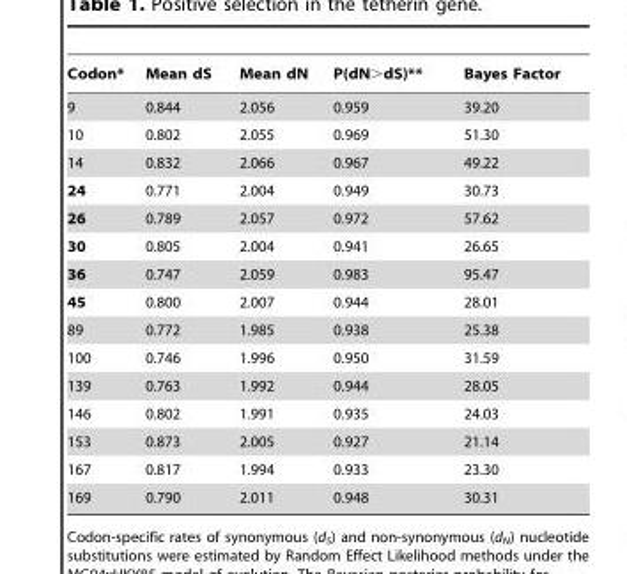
<table><thead><tr><td>Codon*</td><td>Mean dS</td><td>Mean dN</td><td>P(dN&gt;dS)**</td><td>Bayes Factor</td></tr></thead><tbody><tr><td>9</td><td>0.844</td><td>2.056</td><td>0.959</td><td>39.20</td></tr><tr><td>10</td><td>0.802</td><td>2.055</td><td>0.969</td><td>51.30</td></tr><tr><td>14</td><td>0.832</td><td>2.066</td><td>0.967</td><td>49.22</td></tr><tr><td>24</td><td>0.771</td><td>2.004</td><td>0.949</td><td>30.73</td></tr><tr><td>26</td><td>0.789</td><td>2.057</td><td>0.972</td><td>57.62</td></tr><tr><td>30</td><td>0.805</td><td>2.004</td><td>0.941</td><td>26.65</td></tr><tr><td>36</td><td>0.747</td><td>2.059</td><td>0.983</td><td>95.47</td></tr><tr><td>45</td><td>0.800</td><td>2.007</td><td>0.944</td><td>28.01</td></tr><tr><td>89</td><td>0.772</td><td>1.985</td><td>0.938</td><td>25.38</td></tr><tr><td>100</td><td>0.746</td><td>1.996</td><td>0.950</td><td>31.59</td></tr><tr><td>139</td><td>0.763</td><td>1.992</td><td>0.944</td><td>28.05</td></tr><tr><td>146</td><td>0.802</td><td>1.991</td><td>0.935</td><td>24.03</td></tr><tr><td>153</td><td>0.873</td><td>2.005</td><td>0.927</td><td>21.14</td></tr><tr><td>167</td><td>0.817</td><td>1.994</td><td>0.933</td><td>23.30</td></tr><tr><td>169</td><td>0.790</td><td>2.011</td><td>0.948</td><td>30.31</td></tr></tbody></table>